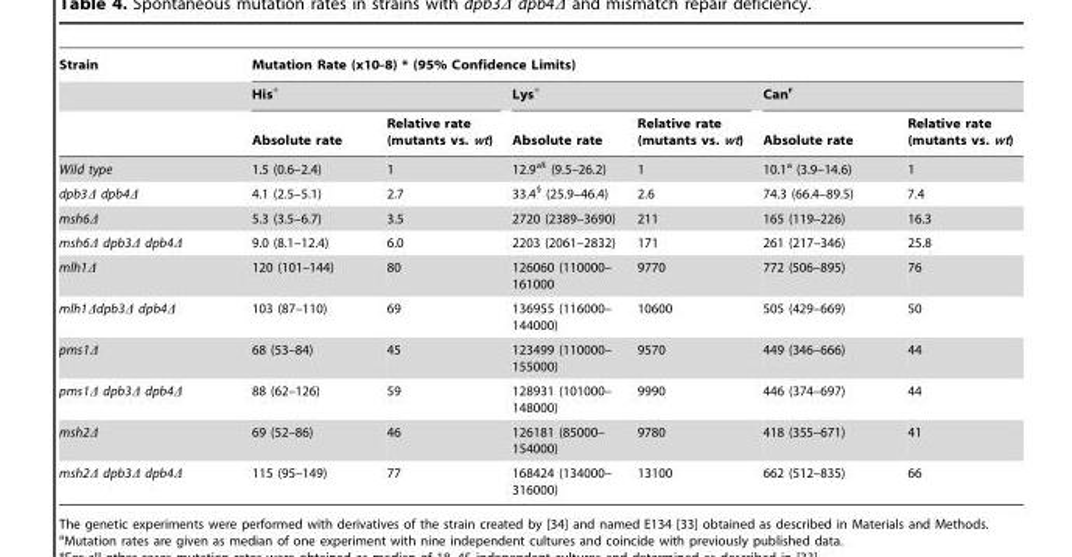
<table><thead><tr><td rowspan="3">Strain</td><td colspan="6">Mutation Rate (x10-8) * (95% Confidence Limits)</td></tr><tr><td colspan="2">His<sup>+</sup></td><td colspan="2">Lys<sup>+</sup></td><td colspan="2">Can<sup>r</sup></td></tr><tr><td>Absolute rate</td><td>Relative rate (mutants vs. wt)</td><td>Absolute rate</td><td>Relative rate (mutants vs. wt)</td><td>Absolute rate</td><td>Relative rate (mutants vs. wt)</td></tr></thead><tbody><tr><td>Wild type</td><td>1.5 (0.6–2.4)</td><td>1</td><td>12.9<sup>a</sup>§ (9.5–26.2)</td><td>1</td><td>10.1<sup>a</sup> (3.9–14.6)</td><td>1</td></tr><tr><td>dpb3Δ dpb4Δ</td><td>4.1 (2.5–5.1)</td><td>2.7</td><td>33.4§ (25.9–46.4)</td><td>2.6</td><td>74.3 (66.4–89.5)</td><td>7.4</td></tr><tr><td>msh6Δ</td><td>5.3 (3.5–6.7)</td><td>3.5</td><td>2720 (2389–3690)</td><td>211</td><td>165 (119–226)</td><td>16.3</td></tr><tr><td>msh6Δ dpb3Δ dpb4Δ</td><td>9.0 (8.1–12.4)</td><td>6.0</td><td>2203 (2061–2832)</td><td>171</td><td>261 (217–346)</td><td>25.8</td></tr><tr><td>mlh1Δ</td><td>120 (101–144)</td><td>80</td><td>126060 (110000– 161000</td><td>9770</td><td>772 (506–895)</td><td>76</td></tr><tr><td>mlh1Δdpb3Δ dpb4Δ</td><td>103 (87–110)</td><td>69</td><td>136955 (116000– 144000)</td><td>10600</td><td>505 (429–669)</td><td>50</td></tr><tr><td>pms1Δ</td><td>68 (53–84)</td><td>45</td><td>123499 (110000– 155000)</td><td>9570</td><td>449 (346–666)</td><td>44</td></tr><tr><td>pms1Δ dpb3Δ dpb4Δ</td><td>88 (62–126)</td><td>59</td><td>128931 (101000– 148000)</td><td>9990</td><td>446 (374–697)</td><td>44</td></tr><tr><td>msh2Δ</td><td>69 (52–86)</td><td>46</td><td>126181 (85000– 154000)</td><td>9780</td><td>418 (355–671)</td><td>41</td></tr><tr><td>msh2Δ dpb3Δ dpb4Δ</td><td>115 (95–149)</td><td>77</td><td>168424 (134000– 316000)</td><td>13100</td><td>662 (512–835)</td><td>66</td></tr></tbody></table>